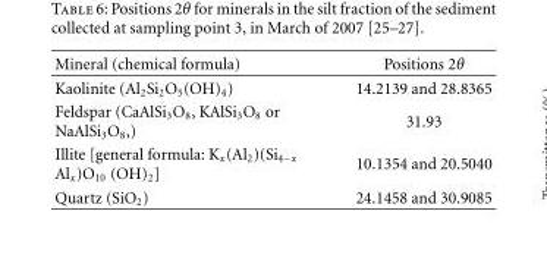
<table><thead><tr><td>Mineral (chemical formula)</td><td>Positions 2θ</td></tr></thead><tbody><tr><td>Kaolinite (Al<sub>2</sub>Si<sub>2</sub>O<sub>5</sub>(OH)<sub>4</sub>)</td><td>14.2139 and 28.8365</td></tr><tr><td>Feldspar (CaAlSi<sub>3</sub>O<sub>8</sub>, KAlSi<sub>3</sub>O<sub>8</sub> or NaAlSi<sub>3</sub>O<sub>8</sub>,)</td><td>31.93</td></tr><tr><td>Illite [general formula: K<sub>x</sub>(Al<sub>2</sub>)(Si<sub>4−x</sub> Al<sub>x</sub>)O<sub>10</sub> (OH)<sub>2</sub>]</td><td>10.1354 and 20.5040</td></tr><tr><td>Quartz (SiO<sub>2</sub>)</td><td>24.1458 and 30.9085</td></tr></tbody></table>